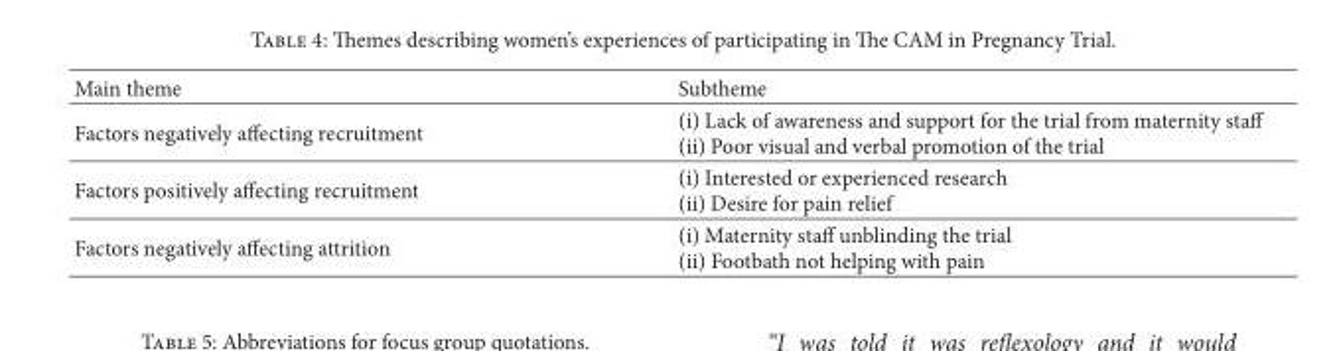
<table><thead><tr><td>Main theme</td><td>Subtheme</td></tr></thead><tbody><tr><td>Factors negatively affecting recruitment</td><td>(i) Lack of awareness and support for the trial from maternity staff (ii) Poor visual and verbal promotion of the trial</td></tr><tr><td>Factors positively affecting recruitment</td><td>(i) Interested or experienced research (ii) Desire for pain relief</td></tr><tr><td>Factors negatively affecting attrition</td><td>(i) Maternity staff unblinding the trial (ii) Footbath not helping with pain</td></tr></tbody></table>